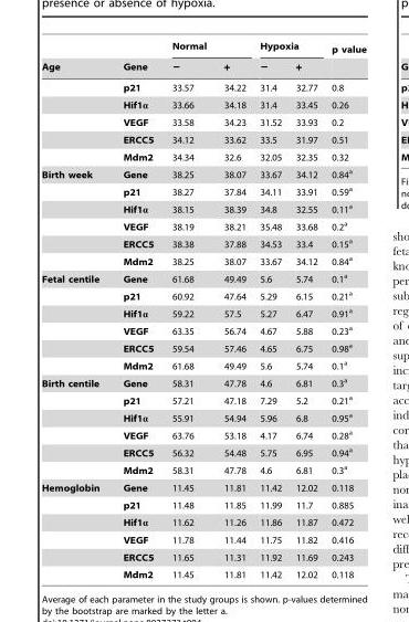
<table><thead><tr><td rowspan="2">Age</td><td rowspan="2">Gene</td><td colspan="2">Normal</td><td colspan="2">Hypoxia</td><td rowspan="2">p value</td></tr><tr><td>−</td><td>+</td><td>−</td><td>+</td></tr></thead><tbody><tr><td></td><td>p21</td><td>33.57</td><td>34.22</td><td>31.4</td><td>32.77</td><td>0.8</td></tr><tr><td></td><td>Hif1α</td><td>33.66</td><td>34.18</td><td>31.4</td><td>33.45</td><td>0.26</td></tr><tr><td></td><td>VEGF</td><td>33.58</td><td>34.23</td><td>31.52</td><td>33.93</td><td>0.2</td></tr><tr><td></td><td>ERCC5</td><td>34.12</td><td>33.62</td><td>33.5</td><td>31.97</td><td>0.51</td></tr><tr><td></td><td>Mdm2</td><td>34.34</td><td>32.6</td><td>32.05</td><td>32.35</td><td>0.32</td></tr><tr><td rowspan="6">Birth week</td><td>Gene</td><td>38.25</td><td>38.07</td><td>33.67</td><td>34.12</td><td>0.84<sup>a</sup></td></tr><tr><td>p21</td><td>38.27</td><td>37.84</td><td>34.11</td><td>33.91</td><td>0.59<sup>a</sup></td></tr><tr><td>Hif1α</td><td>38.15</td><td>38.39</td><td>34.8</td><td>32.55</td><td>0.11<sup>a</sup></td></tr><tr><td>VEGF</td><td>38.19</td><td>38.21</td><td>35.48</td><td>33.68</td><td>0.2<sup>a</sup></td></tr><tr><td>ERCC5</td><td>38.38</td><td>37.88</td><td>34.53</td><td>33.4</td><td>0.15<sup>a</sup></td></tr><tr><td>Mdm2</td><td>38.25</td><td>38.07</td><td>33.67</td><td>34.12</td><td>0.84<sup>a</sup></td></tr><tr><td rowspan="6">Fetal centile</td><td>Gene</td><td>61.68</td><td>49.49</td><td>5.6</td><td>5.74</td><td>0.1<sup>a</sup></td></tr><tr><td>p21</td><td>60.92</td><td>47.64</td><td>5.29</td><td>6.15</td><td>0.21<sup>a</sup></td></tr><tr><td>Hif1α</td><td>59.22</td><td>57.5</td><td>5.27</td><td>6.47</td><td>0.91<sup>a</sup></td></tr><tr><td>VEGF</td><td>63.35</td><td>56.74</td><td>4.67</td><td>5.88</td><td>0.23<sup>a</sup></td></tr><tr><td>ERCC5</td><td>59.54</td><td>57.46</td><td>4.65</td><td>6.75</td><td>0.98<sup>a</sup></td></tr><tr><td>Mdm2</td><td>61.68</td><td>49.49</td><td>5.6</td><td>5.74</td><td>0.1<sup>a</sup></td></tr><tr><td rowspan="6">Birth centile</td><td>Gene</td><td>58.31</td><td>47.78</td><td>4.6</td><td>6.81</td><td>0.3<sup>a</sup></td></tr><tr><td>p21</td><td>57.21</td><td>47.18</td><td>7.29</td><td>5.2</td><td>0.21<sup>a</sup></td></tr><tr><td>Hif1α</td><td>55.91</td><td>54.94</td><td>5.96</td><td>6.8</td><td>0.95<sup>a</sup></td></tr><tr><td>VEGF</td><td>63.76</td><td>53.18</td><td>4.17</td><td>6.74</td><td>0.28<sup>a</sup></td></tr><tr><td>ERCC5</td><td>56.32</td><td>54.48</td><td>5.75</td><td>6.95</td><td>0.94<sup>a</sup></td></tr><tr><td>Mdm2</td><td>58.31</td><td>47.78</td><td>4.6</td><td>6.81</td><td>0.3<sup>a</sup></td></tr><tr><td rowspan="6">Hemoglobin</td><td>Gene</td><td>11.45</td><td>11.81</td><td>11.42</td><td>12.02</td><td>0.118</td></tr><tr><td>p21</td><td>11.48</td><td>11.85</td><td>11.99</td><td>11.7</td><td>0.885</td></tr><tr><td>Hif1α</td><td>11.62</td><td>11.26</td><td>11.86</td><td>11.87</td><td>0.472</td></tr><tr><td>VEGF</td><td>11.78</td><td>11.44</td><td>11.75</td><td>11.82</td><td>0.416</td></tr><tr><td>ERCC5</td><td>11.65</td><td>11.31</td><td>11.92</td><td>11.69</td><td>0.243</td></tr><tr><td>Mdm2</td><td>11.45</td><td>11.81</td><td>11.42</td><td>12.02</td><td>0.118</td></tr></tbody></table>